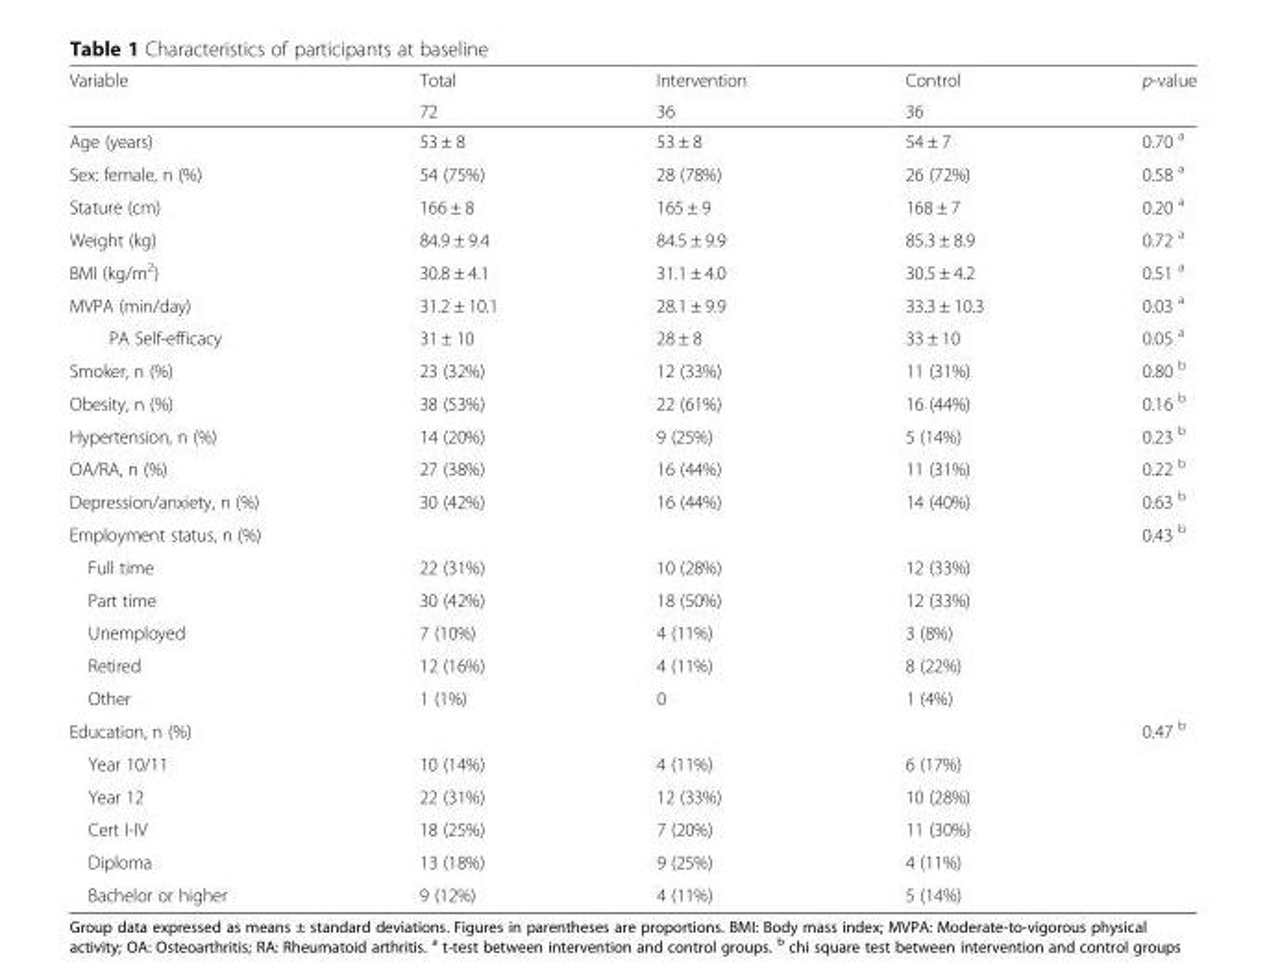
<table><thead><tr><td rowspan="2">Variable</td><td rowspan="2">Total 72</td><td rowspan="2">Intervention 36</td><td rowspan="2">Control 36</td><td rowspan="2">p-value</td></tr><tr></tr></thead><tbody><tr><td>Age (years)</td><td>53 ± 8</td><td>53 ± 8</td><td>54 ± 7</td><td>0.70 <sup>a</sup></td></tr><tr><td>Sex: female, n (%)</td><td>54 (75%)</td><td>28 (78%)</td><td>26 (72%)</td><td>0.58 <sup>a</sup></td></tr><tr><td>Stature (cm)</td><td>166 ± 8</td><td>165 ± 9</td><td>168 ± 7</td><td>0.20 <sup>a</sup></td></tr><tr><td>Weight (kg)</td><td>84.9 ± 9.4</td><td>84.5 ± 9.9</td><td>85.3 ± 8.9</td><td>0.72 <sup>a</sup></td></tr><tr><td>BMI (kg/m<sup>2</sup>)</td><td>30.8 ± 4.1</td><td>31.1 ± 4.0</td><td>30.5 ± 4.2</td><td>0.51 <sup>a</sup></td></tr><tr><td>MVPA (min/day)</td><td>31.2 ± 10.1</td><td>28.1 ± 9.9</td><td>33.3 ± 10.3</td><td>0.03 <sup>a</sup></td></tr><tr><td>PA Self-efficacy</td><td>31 ± 10</td><td>28 ± 8</td><td>33 ± 10</td><td>0.05 <sup>a</sup></td></tr><tr><td>Smoker, n (%)</td><td>23 (32%)</td><td>12 (33%)</td><td>11 (31%)</td><td>0.80 <sup>b</sup></td></tr><tr><td>Obesity, n (%)</td><td>38 (53%)</td><td>22 (61%)</td><td>16 (44%)</td><td>0.16 <sup>b</sup></td></tr><tr><td>Hypertension, n (%)</td><td>14 (20%)</td><td>9 (25%)</td><td>5 (14%)</td><td>0.23 <sup>b</sup></td></tr><tr><td>OA/RA, n (%)</td><td>27 (38%)</td><td>16 (44%)</td><td>11 (31%)</td><td>0.22 <sup>b</sup></td></tr><tr><td>Depression/anxiety, n (%)</td><td>30 (42%)</td><td>16 (44%)</td><td>14 (40%)</td><td>0.63 <sup>b</sup></td></tr><tr><td>Employment status, n (%)</td><td></td><td></td><td></td><td>0.43 <sup>b</sup></td></tr><tr><td>Full time</td><td>22 (31%)</td><td>10 (28%)</td><td>12 (33%)</td><td></td></tr><tr><td>Part time</td><td>30 (42%)</td><td>18 (50%)</td><td>12 (33%)</td><td></td></tr><tr><td>Unemployed</td><td>7 (10%)</td><td>4 (11%)</td><td>3 (8%)</td><td></td></tr><tr><td>Retired</td><td>12 (16%)</td><td>4 (11%)</td><td>8 (22%)</td><td></td></tr><tr><td>Other</td><td>1 (1%)</td><td>0</td><td>1 (4%)</td><td></td></tr><tr><td>Education, n (%)</td><td></td><td></td><td></td><td>0.47 <sup>b</sup></td></tr><tr><td>Year 10/11</td><td>10 (14%)</td><td>4 (11%)</td><td>6 (17%)</td><td></td></tr><tr><td>Year 12</td><td>22 (31%)</td><td>12 (33%)</td><td>10 (28%)</td><td></td></tr><tr><td>Cert I-IV</td><td>18 (25%)</td><td>7 (20%)</td><td>11 (30%)</td><td></td></tr><tr><td>Diploma</td><td>13 (18%)</td><td>9 (25%)</td><td>4 (11%)</td><td></td></tr><tr><td>Bachelor or higher</td><td>9 (12%)</td><td>4 (11%)</td><td>5 (14%)</td><td></td></tr></tbody></table>